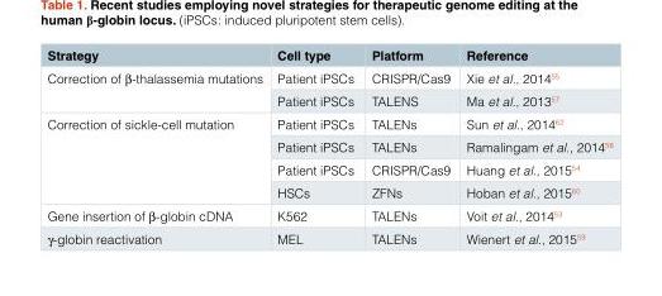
<table><thead><tr><td>Strategy</td><td>Cell type</td><td>Platform</td><td>Reference</td></tr></thead><tbody><tr><td rowspan="2">Correction of β-thalassemia mutations</td><td>Patient iPSCs</td><td>CRISPR/Cas9</td><td>Xie et al., 2014<sup>55</sup></td></tr><tr><td>Patient iPSCs</td><td>TALENS</td><td>Ma et al., 2013<sup>57</sup></td></tr><tr><td rowspan="4">Correction of sickle-cell mutation</td><td>Patient iPSCs</td><td>TALENs</td><td>Sun et al., 2014<sup>62</sup></td></tr><tr><td>Patient iPSCs</td><td>TALENs</td><td>Ramalingam et al., 2014<sup>58</sup></td></tr><tr><td>Patient iPSCs</td><td>CRISPR/Cas9</td><td>Huang et al., 2015<sup>54</sup></td></tr><tr><td>HSCs</td><td>ZFNs</td><td>Hoban et al., 2015<sup>60</sup></td></tr><tr><td>Gene insertion of β-globin cDNA</td><td>K562</td><td>TALENs</td><td>Voit et al., 2014<sup>53</sup></td></tr><tr><td>γ-globin reactivation</td><td>MEL</td><td>TALENs</td><td>Wienert et al., 2015<sup>59</sup></td></tr></tbody></table>